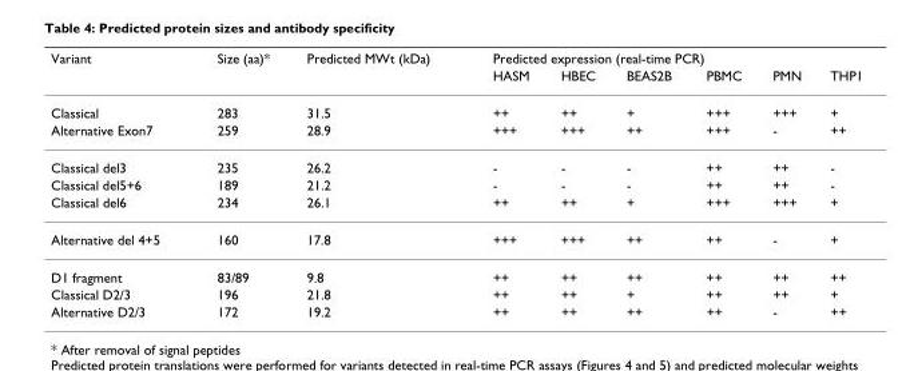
<table><thead><tr><td rowspan="2">Variant</td><td rowspan="2">Size (aa)*</td><td rowspan="2">Predicted MWt (kDa)</td><td colspan="6">Predicted expression (real-time PCR)</td></tr><tr><td>HASM</td><td>HBEC</td><td>BEAS2B</td><td>PBMC</td><td>PMN</td><td>THP1</td></tr></thead><tbody><tr><td>Classical</td><td>283</td><td>31.5</td><td>++</td><td>++</td><td>+</td><td>+++</td><td>+++</td><td>+</td></tr><tr><td>Alternative Exon7</td><td>259</td><td>28.9</td><td>+++</td><td>+++</td><td>++</td><td>+++</td><td>-</td><td>++</td></tr><tr><td>Classical del3</td><td>235</td><td>26.2</td><td>-</td><td>-</td><td>-</td><td>++</td><td>++</td><td>-</td></tr><tr><td>Classical del5+6</td><td>189</td><td>21.2</td><td>-</td><td>-</td><td>-</td><td>++</td><td>++</td><td>-</td></tr><tr><td>Classical del6</td><td>234</td><td>26.1</td><td>++</td><td>++</td><td>+</td><td>+++</td><td>+++</td><td>+</td></tr><tr><td>Alternative del 4+5</td><td>160</td><td>17.8</td><td>+++</td><td>+++</td><td>++</td><td>++</td><td>-</td><td>+</td></tr><tr><td>D1 fragment</td><td>83/89</td><td>9.8</td><td>++</td><td>++</td><td>++</td><td>++</td><td>++</td><td>++</td></tr><tr><td>Classical D2/3</td><td>196</td><td>21.8</td><td>++</td><td>++</td><td>+</td><td>++</td><td>++</td><td>+</td></tr><tr><td>Alternative D2/3</td><td>172</td><td>19.2</td><td>++</td><td>++</td><td>++</td><td>++</td><td>-</td><td>++</td></tr></tbody></table>